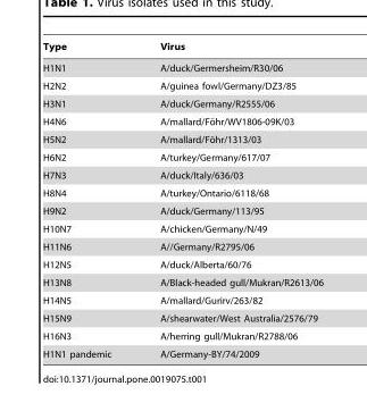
<table><thead><tr><td>Type</td><td>Virus</td></tr></thead><tbody><tr><td>H1N1</td><td>A/duck/Germersheim/R30/06</td></tr><tr><td>H2N2</td><td>A/guinea fowl/Germany/DZ3/85</td></tr><tr><td>H3N1</td><td>A/duck/Germany/R2555/06</td></tr><tr><td>H4N6</td><td>A/mallard/Fo¨hr/WV1806-09K/03</td></tr><tr><td>H5N2</td><td>A/mallard/Fo¨hr/1313/03</td></tr><tr><td>H6N2</td><td>A/turkey/Germany/617/07</td></tr><tr><td>H7N3</td><td>A/duck/Italy/636/03</td></tr><tr><td>H8N4</td><td>A/turkey/Ontario/6118/68</td></tr><tr><td>H9N2</td><td>A/duck/Germany/113/95</td></tr><tr><td>H10N7</td><td>A/chicken/Germany/N/49</td></tr><tr><td>H11N6</td><td>A//Germany/R2795/06</td></tr><tr><td>H12N5</td><td>A/duck/Alberta/60/76</td></tr><tr><td>H13N8</td><td>A/Black-headed gull/Mukran/R2613/06</td></tr><tr><td>H14N5</td><td>A/mallard/Gurirv/263/82</td></tr><tr><td>H15N9</td><td>A/shearwater/West Australia/2576/79</td></tr><tr><td>H16N3</td><td>A/herring gull/Mukran/R2788/06</td></tr><tr><td>H1N1 pandemic</td><td>A/Germany-BY/74/2009</td></tr></tbody></table>